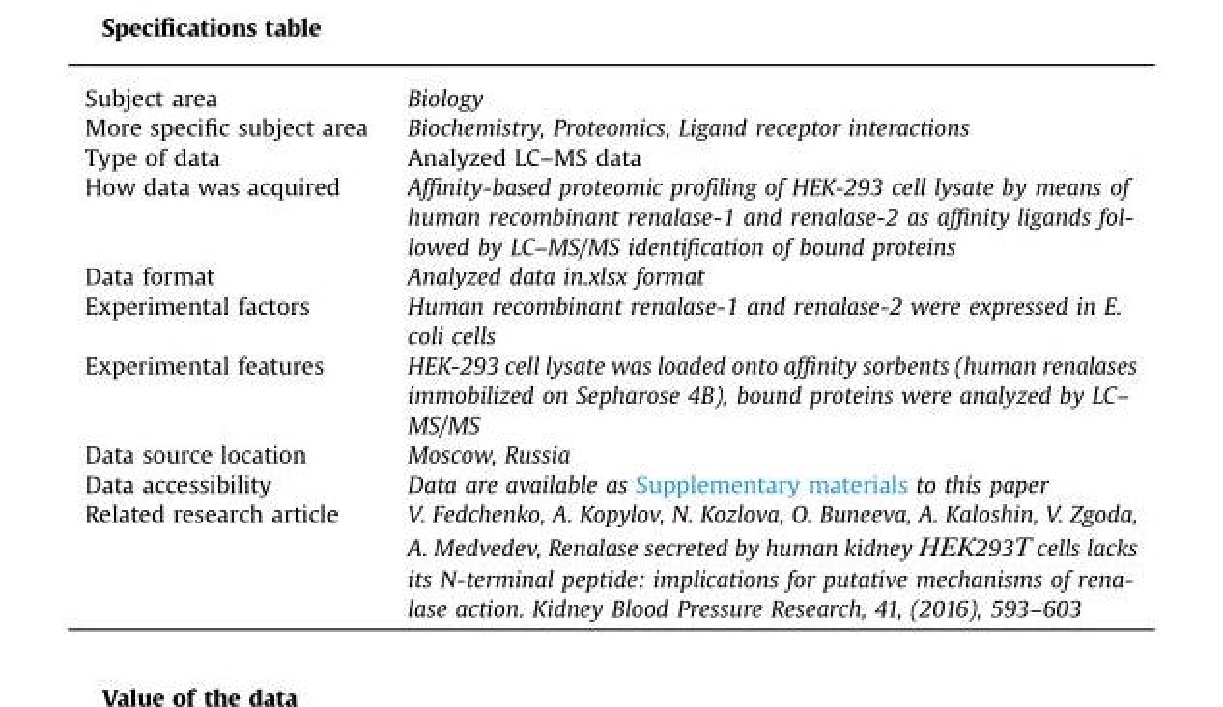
<table><tbody><tr><td>Subject area</td><td>Biology</td></tr><tr><td>More specific subject area</td><td>Biochemistry, Proteomics, Ligand receptor interactions</td></tr><tr><td>Type of data</td><td>Analyzed LC–MS data</td></tr><tr><td>How data was acquired</td><td>Affinity-based proteomic profiling of HEK-293 cell lysate by means of human recombinant renalase-1 and renalase-2 as affinity ligands fol- lowed by LC–MS/MS identification of bound proteins</td></tr><tr><td>Data format</td><td>Analyzed data in.xlsx format</td></tr><tr><td>Experimental factors</td><td>Human recombinant renalase-1 and renalase-2 were expressed in E. coli cells</td></tr><tr><td>Experimental features</td><td>HEK-293 cell lysate was loaded onto affinity sorbents (human renalases immobilized on Sepharose 4B), bound proteins were analyzed by LC– MS/MS</td></tr><tr><td>Data source location</td><td>Moscow, Russia</td></tr><tr><td>Data accessibility</td><td>Data are available as Supplementary materials to this paper</td></tr><tr><td>Related research article</td><td>V. Fedchenko, A. Kopylov, N. Kozlova, O. Buneeva, A. Kaloshin, V. Zgoda, A. Medvedev, Renalase secreted by human kidney НЕК293Т cells lacks its N-terminal peptide: implications for putative mechanisms of rena- lase action. Kidney Blood Pressure Research, 41, (2016), 593–603</td></tr></tbody></table>